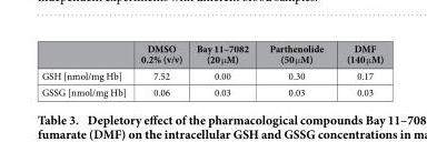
<table><thead><tr><td></td><td>DMSO 0.2% (v/v)</td><td>Bay 11–7082 (20 μ M)</td><td>Parthenolide (50 μ M)</td><td>DMF (140 μ M)</td></tr></thead><tbody><tr><td>GSH [nmol/mg Hb]</td><td>7.52</td><td>0.00</td><td>0.30</td><td>0.17</td></tr><tr><td>GSSG [nmol/mg Hb]</td><td>0.06</td><td>0.03</td><td>0.03</td><td>0.03</td></tr></tbody></table>